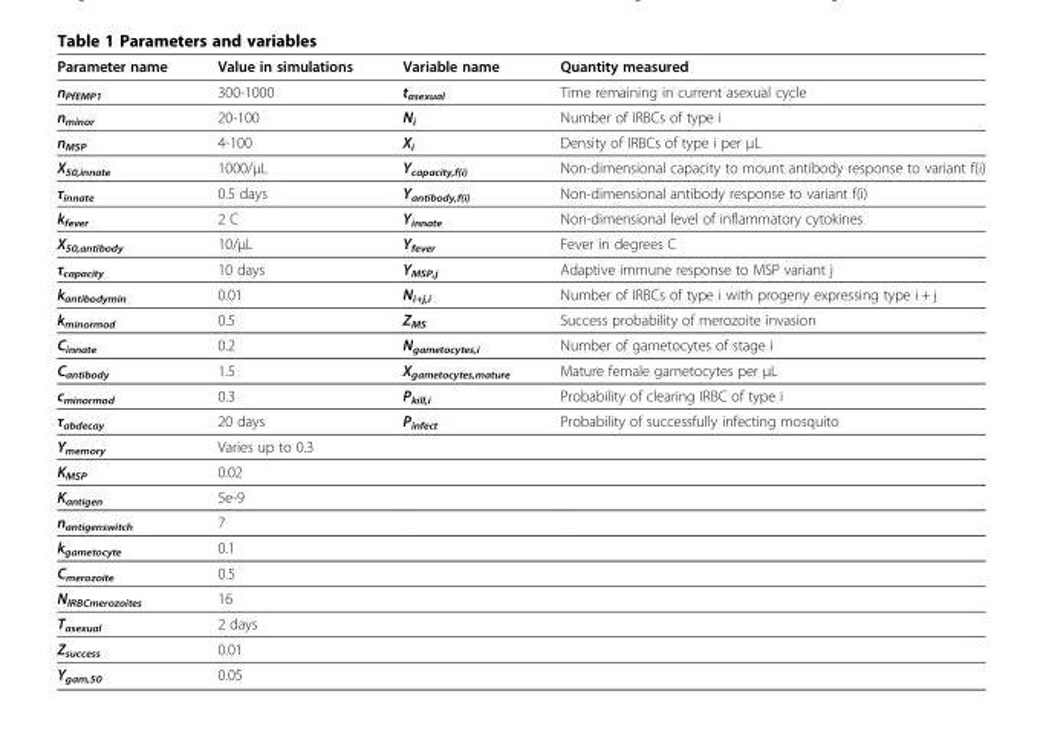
<table><thead><tr><td>Parameter name</td><td>Value in simulations</td><td>Variable name</td><td>Quantity measured</td></tr></thead><tbody><tr><td>n<sub>PfEMP1</sub></td><td>300-1000</td><td>t<sub>asexual</sub></td><td>Time remaining in current asexual cycle</td></tr><tr><td>n<sub>minor</sub></td><td>20-100</td><td>N<sub>i</sub></td><td>Number of IRBCs of type i</td></tr><tr><td>n<sub>MSP</sub></td><td>4-100</td><td>X<sub>i</sub></td><td>Density of IRBCs of type i per μL</td></tr><tr><td>X<sub>50,innate</sub></td><td>1000/μL</td><td>Y<sub>capacity,f(i)</sub></td><td>Non-dimensional capacity to mount antibody response to variant f(i)</td></tr><tr><td>τ<sub>innate</sub></td><td>0.5 days</td><td>Y<sub>antibody,f(i)</sub></td><td>Non-dimensional antibody response to variant f(i)</td></tr><tr><td>k<sub>fever</sub></td><td>2 C</td><td>Y<sub>innate</sub></td><td>Non-dimensional level of inflammatory cytokines</td></tr><tr><td>X<sub>50,antibody</sub></td><td>10/μL</td><td>Y<sub>fever</sub></td><td>Fever in degrees C</td></tr><tr><td>τ<sub>capacity</sub></td><td>10 days</td><td>Y<sub>MSP,j</sub></td><td>Adaptive immune response to MSP variant j</td></tr><tr><td>k<sub>antibodymin</sub></td><td>0.01</td><td>N<sub>i+j,i</sub></td><td>Number of IRBCs of type i with progeny expressing type i + j</td></tr><tr><td>k<sub>minormod</sub></td><td>0.5</td><td>Z<sub>MS</sub></td><td>Success probability of merozoite invasion</td></tr><tr><td>C<sub>innate</sub></td><td>0.2</td><td>N<sub>gametocytes,i</sub></td><td>Number of gametocytes of stage i</td></tr><tr><td>C<sub>antibody</sub></td><td>1.5</td><td>X<sub>gametocytes,mature</sub></td><td>Mature female gametocytes per μL</td></tr><tr><td>c<sub>minormod</sub></td><td>0.3</td><td>P<sub>kill,i</sub></td><td>Probability of clearing IRBC of type i</td></tr><tr><td>τ<sub>abdecay</sub></td><td>20 days</td><td>P<sub>infect</sub></td><td>Probability of successfully infecting mosquito</td></tr><tr><td>Y<sub>memory</sub></td><td>Varies up to 0.3</td><td></td><td></td></tr><tr><td>K<sub>MSP</sub></td><td>0.02</td><td></td><td></td></tr><tr><td>K<sub>antigen</sub></td><td>5e-9</td><td></td><td></td></tr><tr><td>n<sub>antigenswitch</sub></td><td>7</td><td></td><td></td></tr><tr><td>k<sub>gametocyte</sub></td><td>0.1</td><td></td><td></td></tr><tr><td>C<sub>merozoite</sub></td><td>0.5</td><td></td><td></td></tr><tr><td>N<sub>IRBCmerozoites</sub></td><td>16</td><td></td><td></td></tr><tr><td>T<sub>asexual</sub></td><td>2 days</td><td></td><td></td></tr><tr><td>Z<sub>success</sub></td><td>0.01</td><td></td><td></td></tr><tr><td>Y<sub>gam,50</sub></td><td>0.05</td><td></td><td></td></tr></tbody></table>